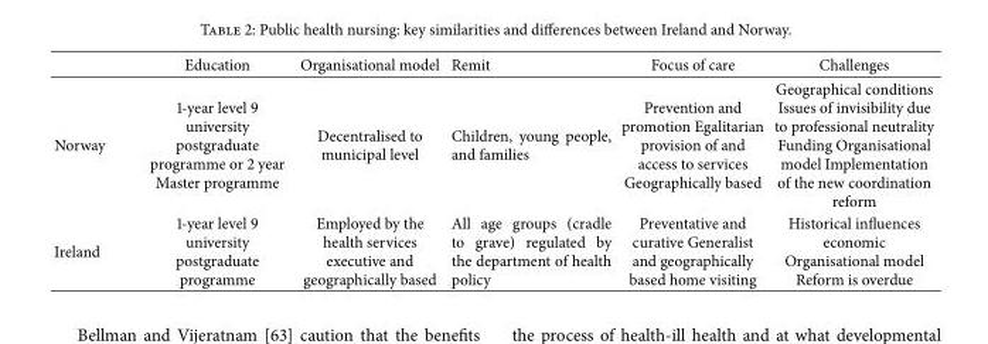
<table><thead><tr><td></td><td>Education</td><td>Organisational model</td><td>Remit</td><td>Focus of care</td><td>Challenges</td></tr></thead><tbody><tr><td>Norway</td><td>1-year level 9 university postgraduate programme or 2 year Master programme</td><td>Decentralised to municipal level</td><td>Children, young people, and families</td><td>Prevention and promotion Egalitarian provision of and access to services Geographically based</td><td>Geographical conditions Issues of invisibility due to professional neutrality Funding Organisational model Implementation of the new coordination reform</td></tr><tr><td>Ireland</td><td>1-year level 9 university postgraduate programme</td><td>Employed by the health services executive and geographically based</td><td>All age groups (cradle to grave) regulated by the department of health policy</td><td>Preventative and curative Generalist and geographically based home visiting</td><td>Historical influences economic Organisational model Reform is overdue</td></tr></tbody></table>